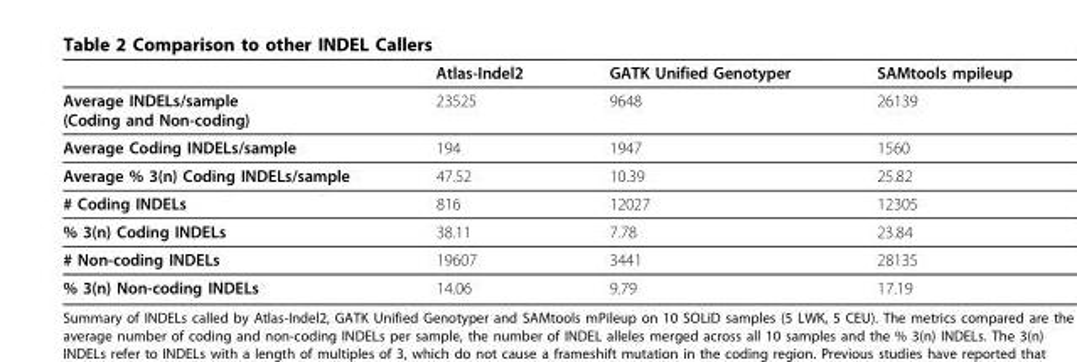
<table><thead><tr><td></td><td>Atlas-Indel2</td><td>GATK Unified Genotyper</td><td>SAMtools mpileup</td></tr></thead><tbody><tr><td>Average INDELs/sample (Coding and Non-coding)</td><td>23525</td><td>9648</td><td>26139</td></tr><tr><td>Average Coding INDELs/sample</td><td>194</td><td>1947</td><td>1560</td></tr><tr><td>Average % 3(n) Coding INDELs/sample</td><td>47.52</td><td>10.39</td><td>25.82</td></tr><tr><td># Coding INDELs</td><td>816</td><td>12027</td><td>12305</td></tr><tr><td>% 3(n) Coding INDELs</td><td>38.11</td><td>7.78</td><td>23.84</td></tr><tr><td># Non-coding INDELs</td><td>19607</td><td>3441</td><td>28135</td></tr><tr><td>% 3(n) Non-coding INDELs</td><td>14.06</td><td>9.79</td><td>17.19</td></tr></tbody></table>